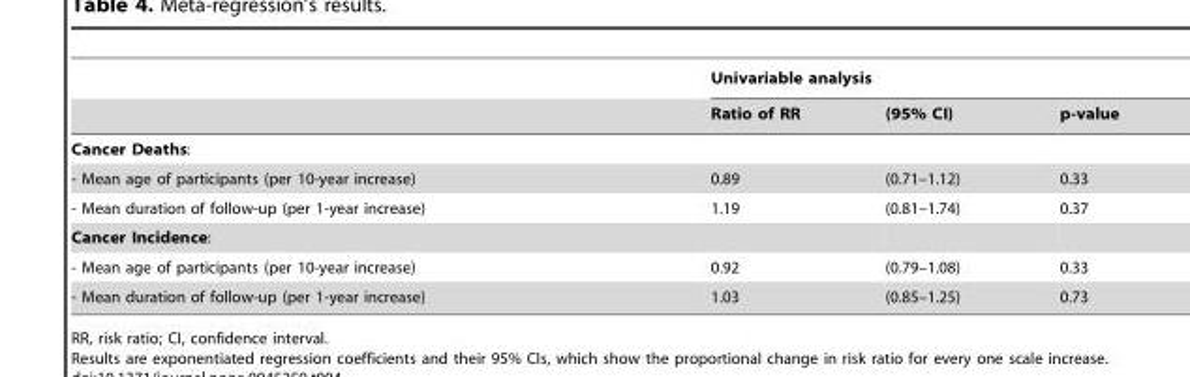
<table><thead><tr><td rowspan="2"></td><td colspan="3">Univariable analysis</td></tr><tr><td>Ratio of RR</td><td>(95% CI)</td><td>p-value</td></tr></thead><tbody><tr><td colspan="4">Cancer Deaths:</td></tr><tr><td>- Mean age of participants (per 10-year increase)</td><td>0.89</td><td>(0.71–1.12)</td><td>0.33</td></tr><tr><td>- Mean duration of follow-up (per 1-year increase)</td><td>1.19</td><td>(0.81–1.74)</td><td>0.37</td></tr><tr><td colspan="4">Cancer Incidence:</td></tr><tr><td>- Mean age of participants (per 10-year increase)</td><td>0.92</td><td>(0.79–1.08)</td><td>0.33</td></tr><tr><td>- Mean duration of follow-up (per 1-year increase)</td><td>1.03</td><td>(0.85–1.25)</td><td>0.73</td></tr></tbody></table>